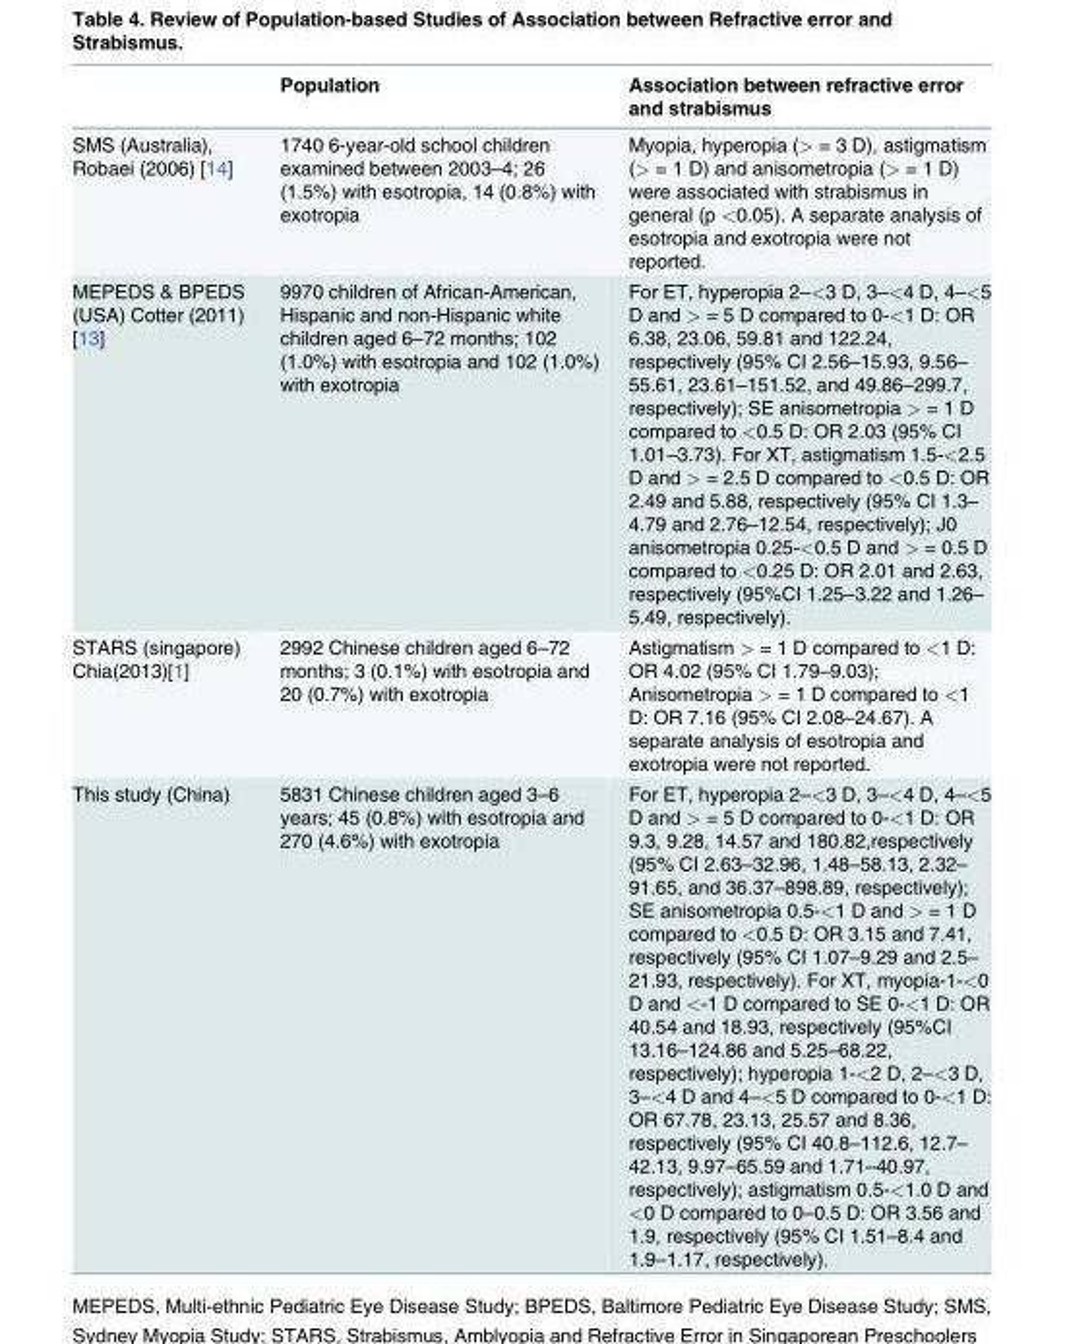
<table><thead><tr><td></td><td>Population</td><td>Association between refractive error and strabismus</td></tr></thead><tbody><tr><td>SMS (Australia), Robaei (2006) [14]</td><td>1740 6-year-old school children examined between 2003–4; 26 (1.5%) with esotropia, 14 (0.8%) with exotropia</td><td>Myopia, hyperopia (&gt; = 3 D), astigmatism (&gt; = 1 D) and anisometropia (&gt; = 1 D) were associated with strabismus in general (p &lt;0.05). A separate analysis of esotropia and exotropia were not reported.</td></tr><tr><td>MEPEDS &amp; BPEDS (USA) Cotter (2011) [13]</td><td>9970 children of African-American, Hispanic and non-Hispanic white children aged 6–72 months; 102 (1.0%) with esotropia and 102 (1.0%) with exotropia</td><td>For ET, hyperopia 2–&lt;3 D, 3–&lt;4 D, 4–&lt;5 D and &gt; = 5 D compared to 0-&lt;1 D: OR 6.38, 23.06, 59.81 and 122.24, respectively (95% CI 2.56–15.93, 9.56– 55.61, 23.61–151.52, and 49.86–299.7, respectively); SE anisometropia &gt; = 1 D compared to &lt;0.5 D: OR 2.03 (95% CI 1.01–3.73). For XT, astigmatism 1.5-&lt;2.5 D and &gt; = 2.5 D compared to &lt;0.5 D: OR 2.49 and 5.88, respectively (95% CI 1.3– 4.79 and 2.76–12.54, respectively); J0 anisometropia 0.25-&lt;0.5 D and &gt; = 0.5 D compared to &lt;0.25 D: OR 2.01 and 2.63, respectively (95%CI 1.25–3.22 and 1.26– 5.49, respectively).</td></tr><tr><td>STARS (singapore) Chia(2013)[1]</td><td>2992 Chinese children aged 6–72 months; 3 (0.1%) with esotropia and 20 (0.7%) with exotropia</td><td>Astigmatism &gt; = 1 D compared to &lt;1 D: OR 4.02 (95% CI 1.79–9.03); Anisometropia &gt; = 1 D compared to &lt;1 D: OR 7.16 (95% CI 2.08–24.67). A separate analysis of esotropia and exotropia were not reported.</td></tr><tr><td>This study (China)</td><td>5831 Chinese children aged 3–6 years; 45 (0.8%) with esotropia and 270 (4.6%) with exotropia</td><td>For ET, hyperopia 2–&lt;3 D, 3–&lt;4 D, 4–&lt;5 D and &gt; = 5 D compared to 0-&lt;1 D: OR 9.3, 9.28, 14.57 and 180.82,respectively (95% CI 2.63–32.96, 1.48–58.13, 2.32– 91.65, and 36.37–898.89, respectively); SE anisometropia 0.5-&lt;1 D and &gt; = 1 D compared to &lt;0.5 D: OR 3.15 and 7.41, respectively (95% CI 1.07–9.29 and 2.5– 21.93, respectively). For XT, myopia-1-&lt;0 D and &lt;-1 D compared to SE 0-&lt;1 D: OR 40.54 and 18.93, respectively (95%CI 13.16–124.86 and 5.25–68.22, respectively); hyperopia 1-&lt;2 D, 2–&lt;3 D, 3–&lt;4 D and 4–&lt;5 D compared to 0-&lt;1 D: OR 67.78, 23.13, 25.57 and 8.36, respectively (95% CI 40.8–112.6, 12.7– 42.13, 9.97–65.59 and 1.71–40.97, respectively); astigmatism 0.5-&lt;1.0 D and &lt;0 D compared to 0–0.5 D: OR 3.56 and 1.9, respectively (95% CI 1.51–8.4 and 1.9–1.17, respectively).</td></tr></tbody></table>